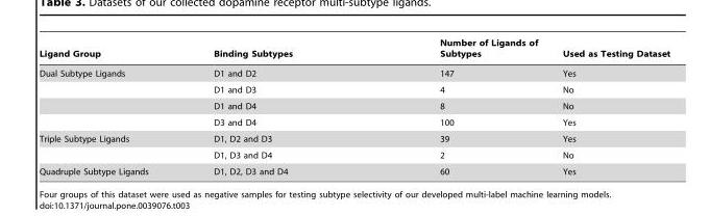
<table><thead><tr><td>Ligand Group</td><td>Binding Subtypes</td><td>Number of Ligands of Subtypes</td><td>Used as Testing Dataset</td></tr></thead><tbody><tr><td rowspan="4">Dual Subtype Ligands</td><td>D1 and D2</td><td>147</td><td>Yes</td></tr><tr><td>D1 and D3</td><td>4</td><td>No</td></tr><tr><td>D1 and D4</td><td>8</td><td>No</td></tr><tr><td>D3 and D4</td><td>100</td><td>Yes</td></tr><tr><td rowspan="2">Triple Subtype Ligands</td><td>D1, D2 and D3</td><td>39</td><td>Yes</td></tr><tr><td>D1, D3 and D4</td><td>2</td><td>No</td></tr><tr><td>Quadruple Subtype Ligands</td><td>D1, D2, D3 and D4</td><td>60</td><td>Yes</td></tr></tbody></table>